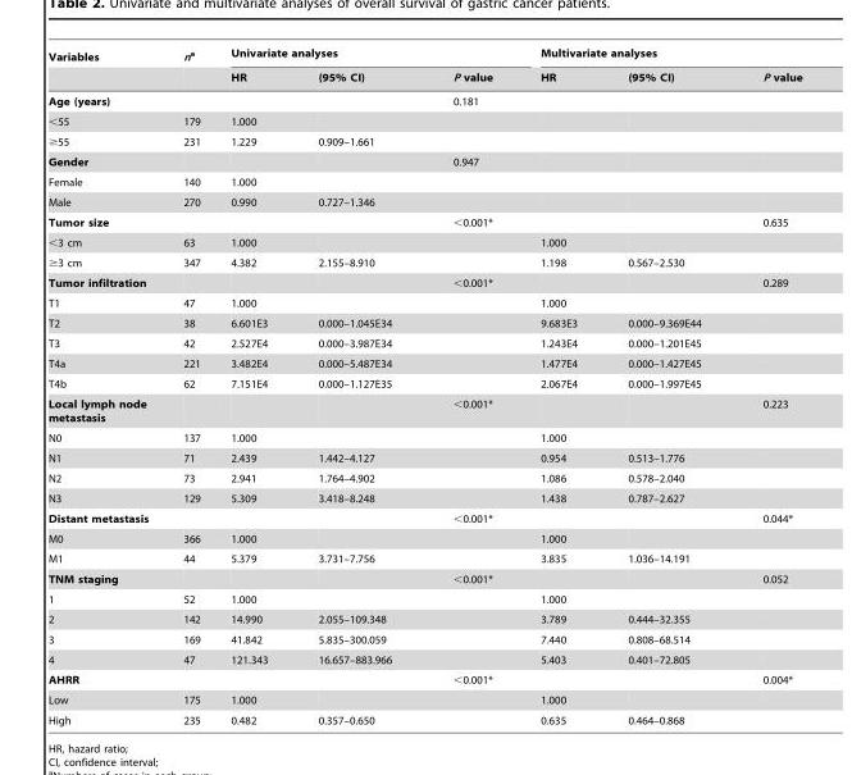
<table><thead><tr><td rowspan="2">Variables</td><td rowspan="2">na</td><td colspan="3">Univariate analyses</td><td colspan="3">Multivariate analyses</td></tr><tr><td>HR</td><td>(95% CI)</td><td>P value</td><td>HR</td><td>(95% CI)</td><td>P value</td></tr></thead><tbody><tr><td>Age (years)</td><td></td><td></td><td></td><td>0.181</td><td></td><td></td><td></td></tr><tr><td>&lt;55</td><td>179</td><td>1.000</td><td></td><td></td><td></td><td></td><td></td></tr><tr><td>≥55</td><td>231</td><td>1.229</td><td>0.909–1.661</td><td></td><td></td><td></td><td></td></tr><tr><td>Gender</td><td></td><td></td><td></td><td>0.947</td><td></td><td></td><td></td></tr><tr><td>Female</td><td>140</td><td>1.000</td><td></td><td></td><td></td><td></td><td></td></tr><tr><td>Male</td><td>270</td><td>0.990</td><td>0.727–1.346</td><td></td><td></td><td></td><td></td></tr><tr><td>Tumor size</td><td></td><td></td><td></td><td>&lt;0.001*</td><td></td><td></td><td>0.635</td></tr><tr><td>&lt;3 cm</td><td>63</td><td>1.000</td><td></td><td></td><td>1.000</td><td></td><td></td></tr><tr><td>≥3 cm</td><td>347</td><td>4.382</td><td>2.155–8.910</td><td></td><td>1.198</td><td>0.567–2.530</td><td></td></tr><tr><td>Tumor infiltration</td><td></td><td></td><td></td><td>&lt;0.001*</td><td></td><td></td><td>0.289</td></tr><tr><td>T1</td><td>47</td><td>1.000</td><td></td><td></td><td>1.000</td><td></td><td></td></tr><tr><td>T2</td><td>38</td><td>6.601E3</td><td>0.000–1.045E34</td><td></td><td>9.683E3</td><td>0.000–9.369E44</td><td></td></tr><tr><td>T3</td><td>42</td><td>2.527E4</td><td>0.000–3.987E34</td><td></td><td>1.243E4</td><td>0.000–1.201E45</td><td></td></tr><tr><td>T4a</td><td>221</td><td>3.482E4</td><td>0.000–5.487E34</td><td></td><td>1.477E4</td><td>0.000–1.427E45</td><td></td></tr><tr><td>T4b</td><td>62</td><td>7.151E4</td><td>0.000–1.127E35</td><td></td><td>2.067E4</td><td>0.000–1.997E45</td><td></td></tr><tr><td>Local lymph node metastasis</td><td></td><td></td><td></td><td>&lt;0.001*</td><td></td><td></td><td>0.223</td></tr><tr><td>N0</td><td>137</td><td>1.000</td><td></td><td></td><td>1.000</td><td></td><td></td></tr><tr><td>N1</td><td>71</td><td>2.439</td><td>1.442–4.127</td><td></td><td>0.954</td><td>0.513–1.776</td><td></td></tr><tr><td>N2</td><td>73</td><td>2.941</td><td>1.764–4.902</td><td></td><td>1.086</td><td>0.578–2.040</td><td></td></tr><tr><td>N3</td><td>129</td><td>5.309</td><td>3.418–8.248</td><td></td><td>1.438</td><td>0.787–2.627</td><td></td></tr><tr><td>Distant metastasis</td><td></td><td></td><td></td><td>&lt;0.001*</td><td></td><td></td><td>0.044*</td></tr><tr><td>M0</td><td>366</td><td>1.000</td><td></td><td></td><td>1.000</td><td></td><td></td></tr><tr><td>M1</td><td>44</td><td>5.379</td><td>3.731–7.756</td><td></td><td>3.835</td><td>1.036–14.191</td><td></td></tr><tr><td>TNM staging</td><td></td><td></td><td></td><td>&lt;0.001*</td><td></td><td></td><td>0.052</td></tr><tr><td>1</td><td>52</td><td>1.000</td><td></td><td></td><td>1.000</td><td></td><td></td></tr><tr><td>2</td><td>142</td><td>14.990</td><td>2.055–109.348</td><td></td><td>3.789</td><td>0.444–32.355</td><td></td></tr><tr><td>3</td><td>169</td><td>41.842</td><td>5.835–300.059</td><td></td><td>7.440</td><td>0.808–68.514</td><td></td></tr><tr><td>4</td><td>47</td><td>121.343</td><td>16.657–883.966</td><td></td><td>5.403</td><td>0.401–72.805</td><td></td></tr><tr><td>AHRR</td><td></td><td></td><td></td><td>&lt;0.001*</td><td></td><td></td><td>0.004*</td></tr><tr><td>Low</td><td>175</td><td>1.000</td><td></td><td></td><td>1.000</td><td></td><td></td></tr><tr><td>High</td><td>235</td><td>0.482</td><td>0.357–0.650</td><td></td><td>0.635</td><td>0.464–0.868</td><td></td></tr></tbody></table>